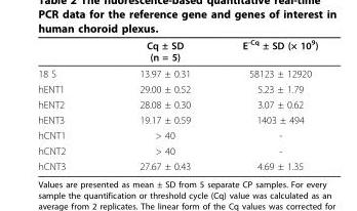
<table><thead><tr><td></td><td>Cq ± SD (n = 5)</td><td>E<sup>-Cq</sup> ± SD (× 10<sup>9</sup>)</td></tr></thead><tbody><tr><td>18 S</td><td>13.97 ± 0.31</td><td>58123 ± 12920</td></tr><tr><td>hENT1</td><td>29.00 ± 0.52</td><td>5.23 ± 1.79</td></tr><tr><td>hENT2</td><td>28.08 ± 0.30</td><td>3.07 ± 0.62</td></tr><tr><td>hENT3</td><td>19.17 ± 0.59</td><td>1403 ± 494</td></tr><tr><td>hCNT1</td><td>&gt; 40</td><td>-</td></tr><tr><td>hCNT2</td><td>&gt; 40</td><td>-</td></tr><tr><td>hCNT3</td><td>27.67 ± 0.43</td><td>4.69 ± 1.35</td></tr></tbody></table>